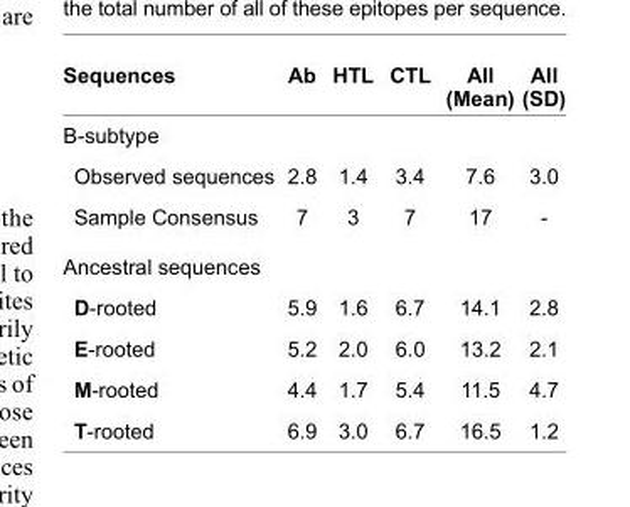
<table><thead><tr><td>Sequences</td><td>Ab</td><td>HTL</td><td>CTL</td><td>All (Mean)</td><td>All (SD)</td></tr></thead><tbody><tr><td colspan="6">B-subtype</td></tr><tr><td>Observed sequences</td><td>2.8</td><td>1.4</td><td>3.4</td><td>7.6</td><td>3.0</td></tr><tr><td>Sample Consensus</td><td>7</td><td>3</td><td>7</td><td>17</td><td>-</td></tr><tr><td colspan="6">Ancestral sequences</td></tr><tr><td>D-rooted</td><td>5.9</td><td>1.6</td><td>6.7</td><td>14.1</td><td>2.8</td></tr><tr><td>E-rooted</td><td>5.2</td><td>2.0</td><td>6.0</td><td>13.2</td><td>2.1</td></tr><tr><td>M-rooted</td><td>4.4</td><td>1.7</td><td>5.4</td><td>11.5</td><td>4.7</td></tr><tr><td>T-rooted</td><td>6.9</td><td>3.0</td><td>6.7</td><td>16.5</td><td>1.2</td></tr></tbody></table>